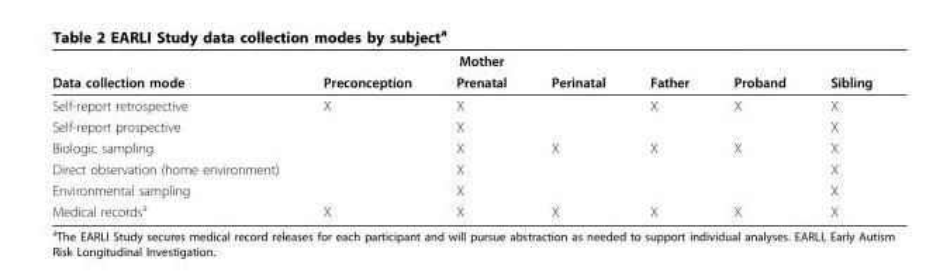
<table><thead><tr><td rowspan="2">Data collection mode</td><td colspan="3">Mother</td><td rowspan="2">Father</td><td rowspan="2">Proband</td><td rowspan="2">Sibling</td></tr><tr><td>Preconception</td><td>Prenatal</td><td>Perinatal</td></tr></thead><tbody><tr><td>Self-report retrospective</td><td>X</td><td>X</td><td></td><td>X</td><td>X</td><td>X</td></tr><tr><td>Self-report prospective</td><td></td><td>X</td><td></td><td></td><td></td><td>X</td></tr><tr><td>Biologic sampling</td><td></td><td>X</td><td>X</td><td>X</td><td>X</td><td>X</td></tr><tr><td>Direct observation (home environment)</td><td></td><td>X</td><td></td><td></td><td></td><td>X</td></tr><tr><td>Environmental sampling</td><td></td><td>X</td><td></td><td></td><td></td><td>X</td></tr><tr><td>Medical records<sup>a</sup></td><td>X</td><td>X</td><td>X</td><td>X</td><td>X</td><td>X</td></tr></tbody></table>